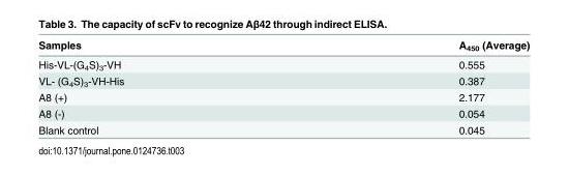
<table><thead><tr><td>Samples</td><td>A<sub>450</sub> (Average)</td></tr></thead><tbody><tr><td>His-VL-(G<sub>4</sub>S)<sub>3</sub>-VH</td><td>0.555</td></tr><tr><td>VL- (G<sub>4</sub>S)<sub>3</sub>-VH-His</td><td>0.387</td></tr><tr><td>A8 (+)</td><td>2.177</td></tr><tr><td>A8 (-)</td><td>0.054</td></tr><tr><td>Blank control</td><td>0.045</td></tr></tbody></table>